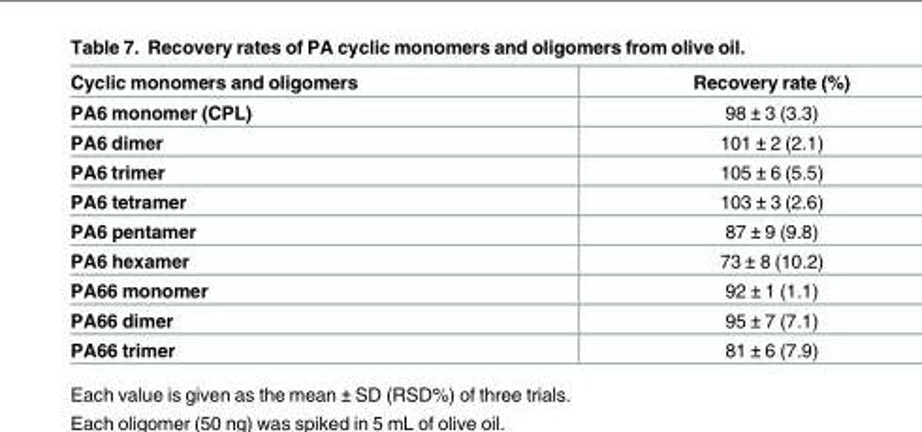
<table><thead><tr><td>Cyclic monomers and oligomers</td><td>Recovery rate (%)</td></tr></thead><tbody><tr><td>PA6 monomer (CPL)</td><td>98 ± 3 (3.3)</td></tr><tr><td>PA6 dimer</td><td>101 ± 2 (2.1)</td></tr><tr><td>PA6 trimer</td><td>105 ± 6 (5.5)</td></tr><tr><td>PA6 tetramer</td><td>103 ± 3 (2.6)</td></tr><tr><td>PA6 pentamer</td><td>87 ± 9 (9.8)</td></tr><tr><td>PA6 hexamer</td><td>73 ± 8 (10.2)</td></tr><tr><td>PA66 monomer</td><td>92 ± 1 (1.1)</td></tr><tr><td>PA66 dimer</td><td>95 ± 7 (7.1)</td></tr><tr><td>PA66 trimer</td><td>81 ± 6 (7.9)</td></tr></tbody></table>